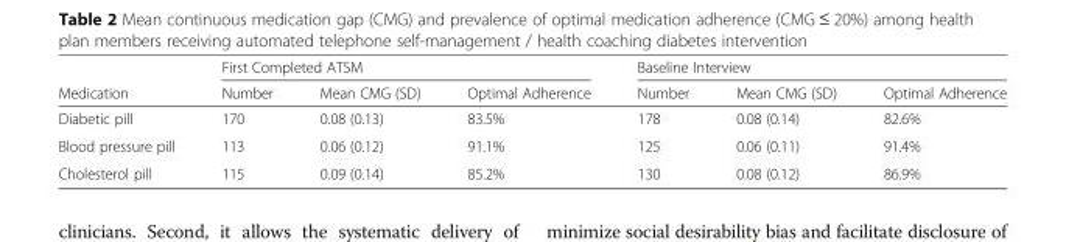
<table><thead><tr><td rowspan="2">Medication</td><td colspan="3">First Completed ATSM</td><td colspan="3">Baseline Interview</td></tr><tr><td>Number</td><td>Mean CMG (SD)</td><td>Optimal Adherence</td><td>Number</td><td>Mean CMG (SD)</td><td>Optimal Adherence</td></tr></thead><tbody><tr><td>Diabetic pill</td><td>170</td><td>0.08 (0.13)</td><td>83.5%</td><td>178</td><td>0.08 (0.14)</td><td>82.6%</td></tr><tr><td>Blood pressure pill</td><td>113</td><td>0.06 (0.12)</td><td>91.1%</td><td>125</td><td>0.06 (0.11)</td><td>91.4%</td></tr><tr><td>Cholesterol pill</td><td>115</td><td>0.09 (0.14)</td><td>85.2%</td><td>130</td><td>0.08 (0.12)</td><td>86.9%</td></tr></tbody></table>